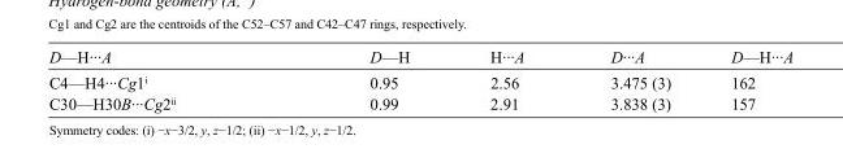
<table><tbody><tr><td>D—H···A</td><td>D—H</td><td>H···A</td><td>D···A</td><td>D—H···A</td></tr><tr><td>C4—H4···Cg1<sup>i</sup></td><td>0.95</td><td>2.56</td><td>3.475 (3)</td><td>162</td></tr><tr><td>C30—H30B···Cg2<sup>ii</sup></td><td>0.99</td><td>2.91</td><td>3.838 (3)</td><td>157</td></tr></tbody></table>